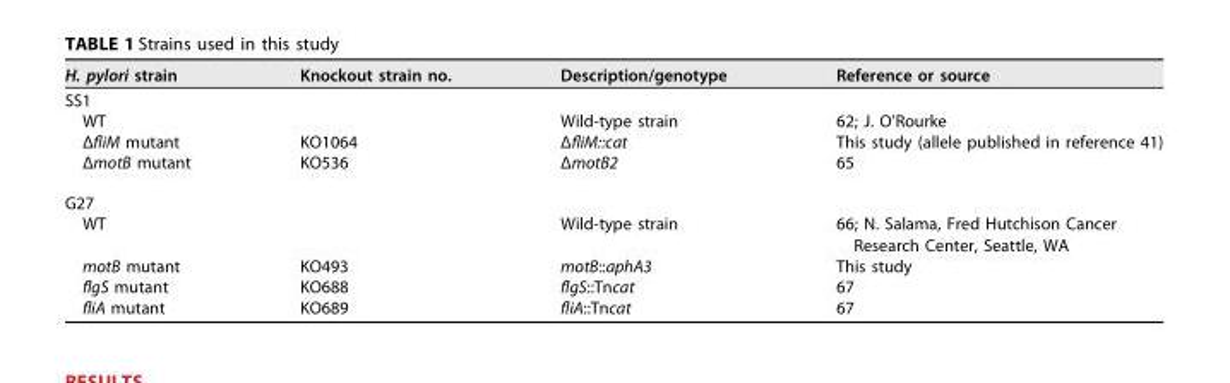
<table><thead><tr><td>H. pylori strain</td><td>Knockout strain no.</td><td>Description/genotype</td><td>Reference or source</td></tr></thead><tbody><tr><td colspan="4">SS1</td></tr><tr><td>WT</td><td></td><td>Wild-type strain</td><td>62; J. O’Rourke</td></tr><tr><td>ΔfliM mutant</td><td>KO1064</td><td>ΔfliM::cat</td><td>This study (allele published in reference 41)</td></tr><tr><td>ΔmotB mutant</td><td>KO536</td><td>ΔmotB2</td><td>65</td></tr><tr><td colspan="4">G27</td></tr><tr><td>WT</td><td></td><td>Wild-type strain</td><td>66; N. Salama, Fred Hutchison Cancer Research Center, Seattle, WA</td></tr><tr><td>motB mutant</td><td>KO493</td><td>motB::aphA3</td><td>This study</td></tr><tr><td>flgS mutant</td><td>KO688</td><td>flgS::Tncat</td><td>67</td></tr><tr><td>fliA mutant</td><td>KO689</td><td>fliA::Tncat</td><td>67</td></tr></tbody></table>